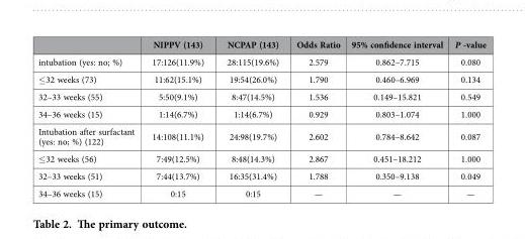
<table><thead><tr><td></td><td>NIPPV (143)</td><td>NCPAP (143)</td><td>Odds Ratio</td><td>95% confidence interval</td><td>P -value</td></tr></thead><tbody><tr><td>intubation (yes: no; %)</td><td>17:126(11.9%)</td><td>28:115(19.6%)</td><td>2.579</td><td>0.862–7.715</td><td>0.080</td></tr><tr><td>≤ 32 weeks (73)</td><td>11:62(15.1%)</td><td>19:54(26.0%)</td><td>1.790</td><td>0.460–6.969</td><td>0.134</td></tr><tr><td>32–33 weeks (55)</td><td>5:50(9.1%)</td><td>8:47(14.5%)</td><td>1.536</td><td>0.149–15.821</td><td>0.549</td></tr><tr><td>34–36 weeks (15)</td><td>1:14(6.7%)</td><td>1:14(6.7%)</td><td>0.929</td><td>0.803–1.074</td><td>1.000</td></tr><tr><td>Intubation after surfactant (yes: no; %) (122)</td><td>14:108(11.1%)</td><td>24:98(19.7%)</td><td>2.602</td><td>0.784–8.642</td><td>0.087</td></tr><tr><td>≤ 32 weeks (56)</td><td>7:49(12.5%)</td><td>8:48(14.3%)</td><td>2.867</td><td>0.451–18.212</td><td>1.000</td></tr><tr><td>32–33 weeks (51)</td><td>7:44(13.7%)</td><td>16:35(31.4%)</td><td>1.788</td><td>0.350–9.138</td><td>0.049</td></tr><tr><td>34–36 weeks (15)</td><td>0:15</td><td>0:15</td><td>—</td><td>—</td><td>—</td></tr></tbody></table>